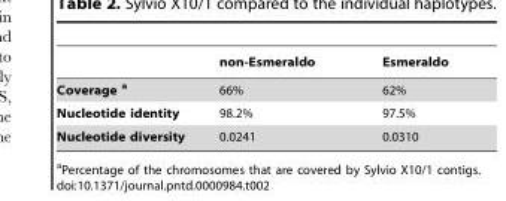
<table><thead><tr><td></td><td>non-Esmeraldo</td><td>Esmeraldo</td></tr></thead><tbody><tr><td>Coverage a</td><td>66%</td><td>62%</td></tr><tr><td>Nucleotide identity</td><td>98.2%</td><td>97.5%</td></tr><tr><td>Nucleotide diversity</td><td>0.0241</td><td>0.0310</td></tr></tbody></table>